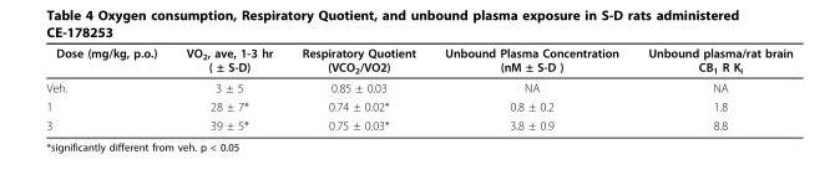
<table><thead><tr><td>Dose (mg/kg, p.o.)</td><td>VO<sub>2</sub>, ave, 1-3 hr ( ± S-D)</td><td>Respiratory Quotient (VCO<sub>2</sub>/VO2)</td><td>Unbound Plasma Concentration (nM ± S-D )</td><td>Unbound plasma/rat brain CB<sub>1</sub> R K<sub>i</sub></td></tr></thead><tbody><tr><td>Veh.</td><td>3 ± 5</td><td>0.85 ± 0.03</td><td>NA</td><td>NA</td></tr><tr><td>1</td><td>28 ± 7*</td><td>0.74 ± 0.02*</td><td>0.8 ± 0.2</td><td>1.8</td></tr><tr><td>3</td><td>39 ± 5*</td><td>0.75 ± 0.03*</td><td>3.8 ± 0.9</td><td>8.8</td></tr></tbody></table>